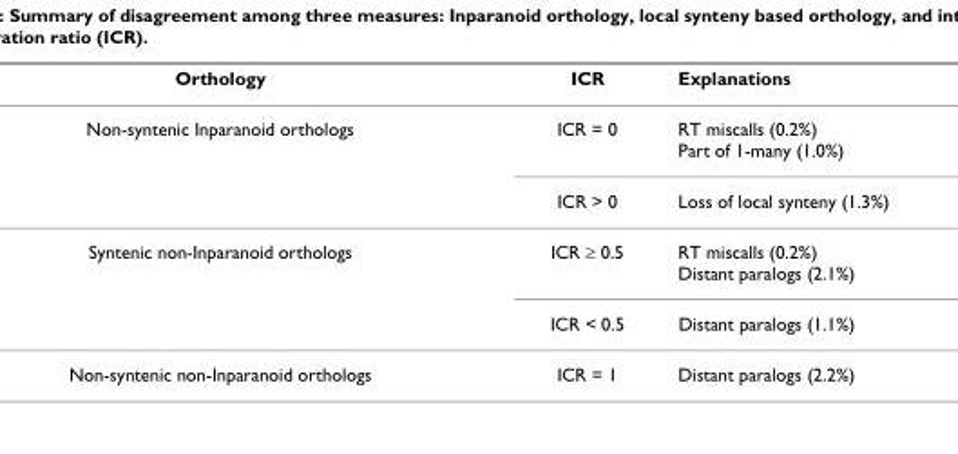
<table><thead><tr><td>Orthology</td><td>ICR</td><td>Explanations</td></tr></thead><tbody><tr><td rowspan="2">Non-syntenic Inparanoid orthologs</td><td>ICR = 0</td><td>RT miscalls (0.2%) Part of 1-many (1.0%)</td></tr><tr><td>ICR &gt; 0</td><td>Loss of local synteny (1.3%)</td></tr><tr><td rowspan="2">Syntenic non-Inparanoid orthologs</td><td>ICR ≥ 0.5</td><td>RT miscalls (0.2%) Distant paralogs (2.1%)</td></tr><tr><td>ICR &lt; 0.5</td><td>Distant paralogs (1.1%)</td></tr><tr><td>Non-syntenic non-Inparanoid orthologs</td><td>ICR = 1</td><td>Distant paralogs (2.2%)</td></tr></tbody></table>